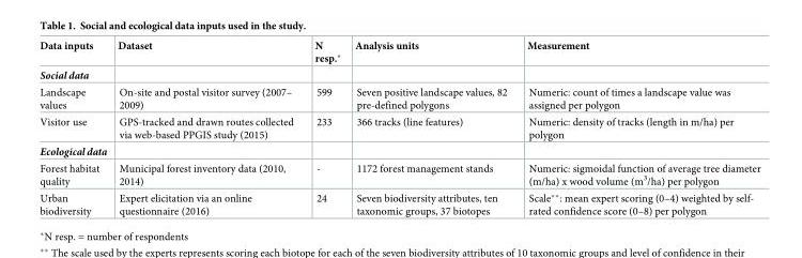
<table><thead><tr><td>Data inputs</td><td>Dataset</td><td>N resp.*</td><td>Analysis units</td><td>Measurement</td></tr></thead><tbody><tr><td colspan="5">Social data</td></tr><tr><td>Landscape values</td><td>On-site and postal visitor survey (2007– 2009)</td><td>599</td><td>Seven positive landscape values, 82 pre-defined polygons</td><td>Numeric: count of times a landscape value was assigned per polygon</td></tr><tr><td>Visitor use</td><td>GPS-tracked and drawn routes collected via web-based PPGIS study (2015)</td><td>233</td><td>366 tracks (line features)</td><td>Numeric: density of tracks (length in m/ha) per polygon</td></tr><tr><td colspan="5">Ecological data</td></tr><tr><td>Forest habitat quality</td><td>Municipal forest inventory data (2010, 2014)</td><td>-</td><td>1172 forest management stands</td><td>Numeric: sigmoidal function of average tree diameter (m/ha) x wood volume (m<sup>3</sup>/ha) per polygon</td></tr><tr><td>Urban biodiversity</td><td>Expert elicitation via an online questionnaire (2016)</td><td>24</td><td>Seven biodiversity attributes, ten taxonomic groups, 37 biotopes</td><td>Scale**: mean expert scoring (0–4) weighted by self- rated confidence score (0–8) per polygon</td></tr></tbody></table>